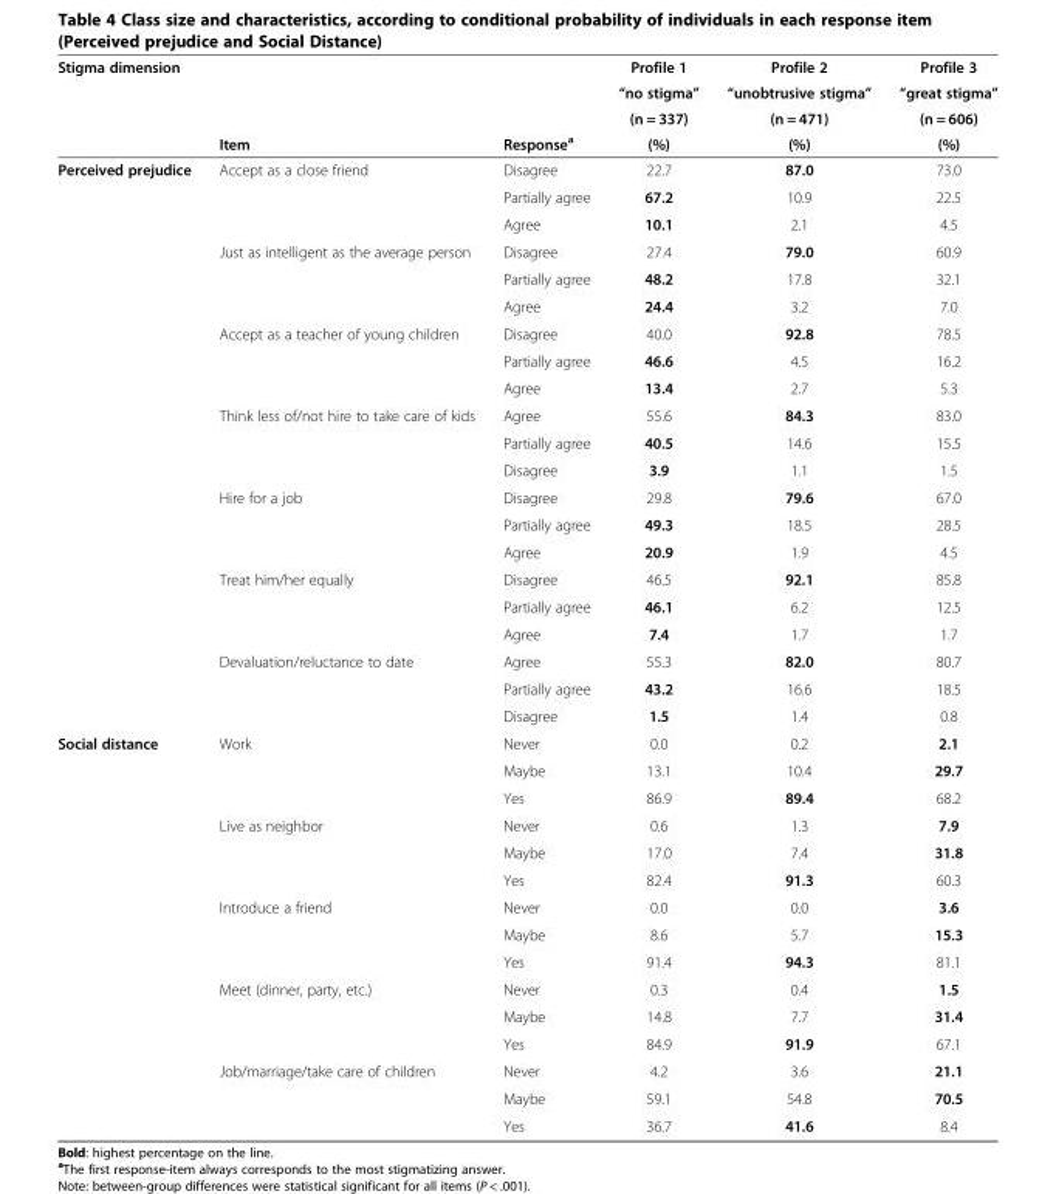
<table><thead><tr><td rowspan="4">Stigma dimension</td><td rowspan="4">Item</td><td rowspan="4">Response<sup>a</sup></td><td rowspan="4">Profile 1 “no stigma” (n = 337) (%)</td><td rowspan="4">Profile 2 “unobtrusive stigma” (n = 471) (%)</td><td rowspan="4">Profile 3 “great stigma” (n = 606) (%)</td></tr><tr></tr><tr></tr><tr></tr></thead><tbody><tr><td rowspan="21">Perceived prejudice</td><td>Accept as a close friend</td><td>Disagree</td><td>22.7</td><td>87.0</td><td>73.0</td></tr><tr><td></td><td>Partially agree</td><td>67.2</td><td>10.9</td><td>22.5</td></tr><tr><td></td><td>Agree</td><td>10.1</td><td>2.1</td><td>4.5</td></tr><tr><td>Just as intelligent as the average person</td><td>Disagree</td><td>27.4</td><td>79.0</td><td>60.9</td></tr><tr><td></td><td>Partially agree</td><td>48.2</td><td>17.8</td><td>32.1</td></tr><tr><td></td><td>Agree</td><td>24.4</td><td>3.2</td><td>7.0</td></tr><tr><td>Accept as a teacher of young children</td><td>Disagree</td><td>40.0</td><td>92.8</td><td>78.5</td></tr><tr><td></td><td>Partially agree</td><td>46.6</td><td>4.5</td><td>16.2</td></tr><tr><td></td><td>Agree</td><td>13.4</td><td>2.7</td><td>5.3</td></tr><tr><td>Think less of/not hire to take care of kids</td><td>Agree</td><td>55.6</td><td>84.3</td><td>83.0</td></tr><tr><td></td><td>Partially agree</td><td>40.5</td><td>14.6</td><td>15.5</td></tr><tr><td></td><td>Disagree</td><td>3.9</td><td>1.1</td><td>1.5</td></tr><tr><td>Hire for a job</td><td>Disagree</td><td>29.8</td><td>79.6</td><td>67.0</td></tr><tr><td></td><td>Partially agree</td><td>49.3</td><td>18.5</td><td>28.5</td></tr><tr><td></td><td>Agree</td><td>20.9</td><td>1.9</td><td>4.5</td></tr><tr><td>Treat him/her equally</td><td>Disagree</td><td>46.5</td><td>92.1</td><td>85.8</td></tr><tr><td></td><td>Partially agree</td><td>46.1</td><td>6.2</td><td>12.5</td></tr><tr><td></td><td>Agree</td><td>7.4</td><td>1.7</td><td>1.7</td></tr><tr><td>Devaluation/reluctance to date</td><td>Agree</td><td>55.3</td><td>82.0</td><td>80.7</td></tr><tr><td></td><td>Partially agree</td><td>43.2</td><td>16.6</td><td>18.5</td></tr><tr><td></td><td>Disagree</td><td>1.5</td><td>1.4</td><td>0.8</td></tr><tr><td rowspan="15">Social distance</td><td>Work</td><td>Never</td><td>0.0</td><td>0.2</td><td>2.1</td></tr><tr><td></td><td>Maybe</td><td>13.1</td><td>10.4</td><td>29.7</td></tr><tr><td></td><td>Yes</td><td>86.9</td><td>89.4</td><td>68.2</td></tr><tr><td>Live as neighbor</td><td>Never</td><td>0.6</td><td>1.3</td><td>7.9</td></tr><tr><td></td><td>Maybe</td><td>17.0</td><td>7.4</td><td>31.8</td></tr><tr><td></td><td>Yes</td><td>82.4</td><td>91.3</td><td>60.3</td></tr><tr><td>Introduce a friend</td><td>Never</td><td>0.0</td><td>0.0</td><td>3.6</td></tr><tr><td></td><td>Maybe</td><td>8.6</td><td>5.7</td><td>15.3</td></tr><tr><td></td><td>Yes</td><td>91.4</td><td>94.3</td><td>81.1</td></tr><tr><td>Meet (dinner, party, etc.)</td><td>Never</td><td>0.3</td><td>0.4</td><td>1.5</td></tr><tr><td></td><td>Maybe</td><td>14.8</td><td>7.7</td><td>31.4</td></tr><tr><td></td><td>Yes</td><td>84.9</td><td>91.9</td><td>67.1</td></tr><tr><td>Job/marriage/take care of children</td><td>Never</td><td>4.2</td><td>3.6</td><td>21.1</td></tr><tr><td></td><td>Maybe</td><td>59.1</td><td>54.8</td><td>70.5</td></tr><tr><td></td><td>Yes</td><td>36.7</td><td>41.6</td><td>8.4</td></tr></tbody></table>